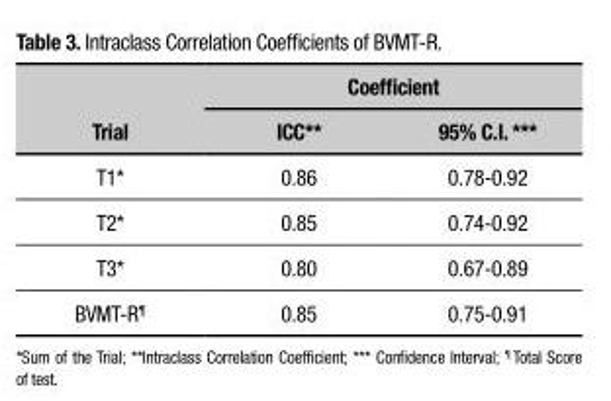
<table><thead><tr><td rowspan="2">Trial</td><td colspan="2">Coefficient</td></tr><tr><td>ICC**</td><td>95% C.I. ***</td></tr></thead><tbody><tr><td>T1*</td><td>0.86</td><td>0.78-0.92</td></tr><tr><td>T2*</td><td>0.85</td><td>0.74-0.92</td></tr><tr><td>T3*</td><td>0.80</td><td>0.67-0.89</td></tr><tr><td>BVMT-R<sup>¶</sup></td><td>0.85</td><td>0.75-0.91</td></tr></tbody></table>